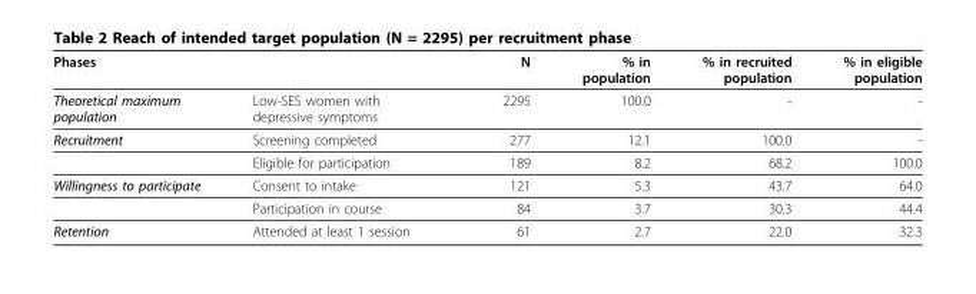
<table><thead><tr><td>Phases</td><td></td><td>N</td><td>% in population</td><td>% in recruited population</td><td>% in eligible population</td></tr></thead><tbody><tr><td>Theoretical maximum population</td><td>Low-SES women with depressive symptoms</td><td>2295</td><td>100.0</td><td>-</td><td>-</td></tr><tr><td rowspan="2">Recruitment</td><td>Screening completed</td><td>277</td><td>12.1</td><td>100.0</td><td>-</td></tr><tr><td>Eligible for participation</td><td>189</td><td>8.2</td><td>68.2</td><td>100.0</td></tr><tr><td rowspan="2">Willingness to participate</td><td>Consent to intake</td><td>121</td><td>5.3</td><td>43.7</td><td>64.0</td></tr><tr><td>Participation in course</td><td>84</td><td>3.7</td><td>30.3</td><td>44.4</td></tr><tr><td>Retention</td><td>Attended at least 1 session</td><td>61</td><td>2.7</td><td>22.0</td><td>32.3</td></tr></tbody></table>